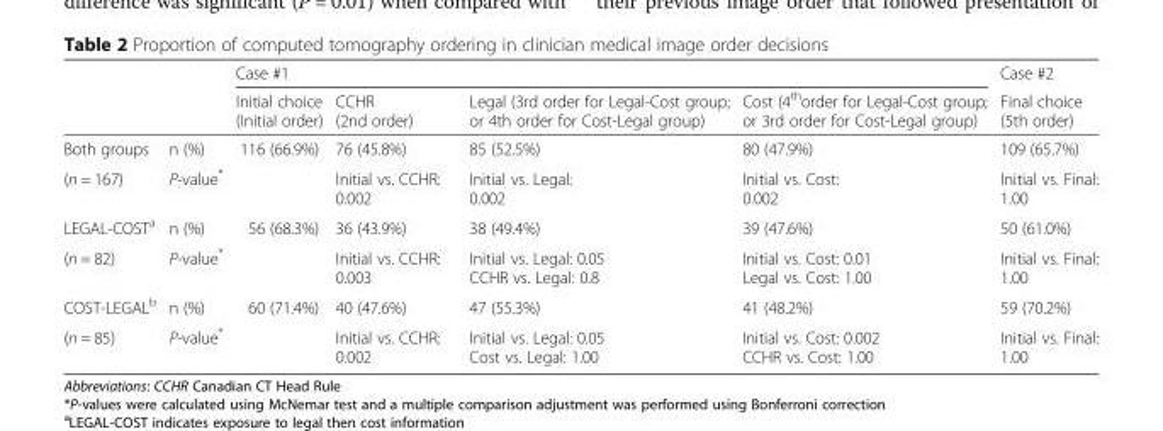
<table><thead><tr><td rowspan="2"></td><td rowspan="2"></td><td colspan="4">Case #1</td><td rowspan="2">Case #2 Final choice (5th order)</td></tr><tr><td>Initial choice (Initial order)</td><td>CCHR (2nd order)</td><td>Legal (3rd order for Legal-Cost group; or 4th order for Cost-Legal group)</td><td>Cost (4<sup>th</sup>order for Legal-Cost group; or 3rd order for Cost-Legal group)</td></tr></thead><tbody><tr><td>Both groups</td><td>n (%)</td><td>116 (66.9%)</td><td>76 (45.8%)</td><td>85 (52.5%)</td><td>80 (47.9%)</td><td>109 (65.7%)</td></tr><tr><td>(n = 167)</td><td>P-value*</td><td></td><td>Initial vs. CCHR: 0.002</td><td>Initial vs. Legal: 0.002</td><td>Initial vs. Cost: 0.002</td><td>Initial vs. Final: 1.00</td></tr><tr><td>LEGAL-COST<sup>a</sup></td><td>n (%)</td><td>56 (68.3%)</td><td>36 (43.9%)</td><td>38 (49.4%)</td><td>39 (47.6%)</td><td>50 (61.0%)</td></tr><tr><td>(n = 82)</td><td>P-value*</td><td></td><td>Initial vs. CCHR: 0.003</td><td>Initial vs. Legal: 0.05 CCHR vs. Legal: 0.8</td><td>Initial vs. Cost: 0.01 Legal vs. Cost: 1.00</td><td>Initial vs. Final: 1.00</td></tr><tr><td>COST-LEGAL<sup>b</sup></td><td>n (%)</td><td>60 (71.4%)</td><td>40 (47.6%)</td><td>47 (55.3%)</td><td>41 (48.2%)</td><td>59 (70.2%)</td></tr><tr><td>(n = 85)</td><td>P-value*</td><td></td><td>Initial vs. CCHR: 0.002</td><td>Initial vs. Legal: 0.05 Cost vs. Legal: 1.00</td><td>Initial vs. Cost: 0.002 CCHR vs. Cost: 1.00</td><td>Initial vs. Final: 1.00</td></tr></tbody></table>